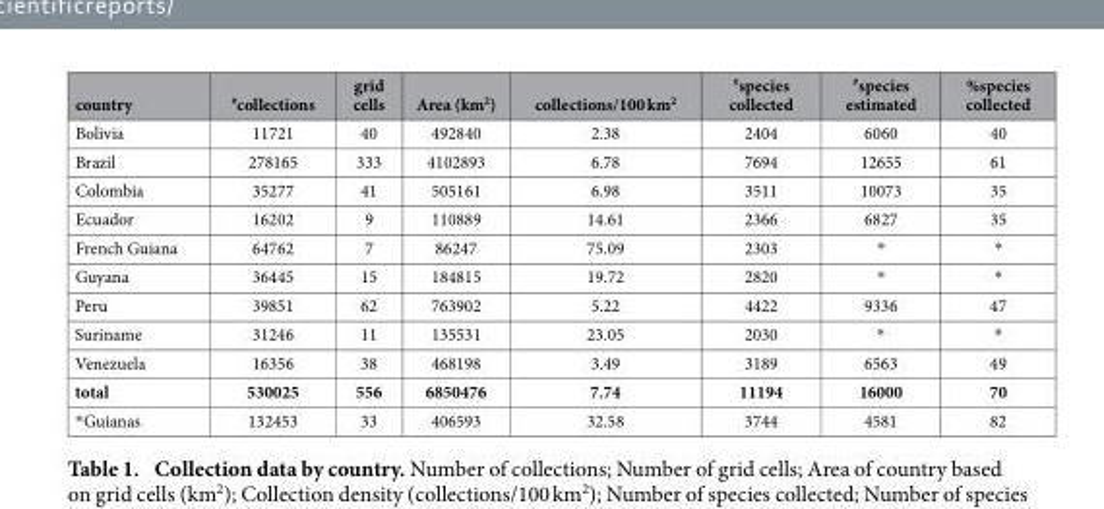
<table><thead><tr><td>country</td><td><sup>#</sup>collections</td><td>grid cells</td><td>Area (km<sup>2</sup>)</td><td>collections/100 km<sup>2</sup></td><td><sup>#</sup>species collected</td><td><sup>#</sup>species estimated</td><td>%species collected</td></tr></thead><tbody><tr><td>Bolivia</td><td>11721</td><td>40</td><td>492840</td><td>2.38</td><td>2404</td><td>6060</td><td>40</td></tr><tr><td>Brazil</td><td>278165</td><td>333</td><td>4102893</td><td>6.78</td><td>7694</td><td>12655</td><td>61</td></tr><tr><td>Colombia</td><td>35277</td><td>41</td><td>505161</td><td>6.98</td><td>3511</td><td>10073</td><td>35</td></tr><tr><td>Ecuador</td><td>16202</td><td>9</td><td>110889</td><td>14.61</td><td>2366</td><td>6827</td><td>35</td></tr><tr><td>French Guiana</td><td>64762</td><td>7</td><td>86247</td><td>75.09</td><td>2303</td><td>*</td><td>*</td></tr><tr><td>Guyana</td><td>36445</td><td>15</td><td>184815</td><td>19.72</td><td>2820</td><td>*</td><td>*</td></tr><tr><td>Peru</td><td>39851</td><td>62</td><td>763902</td><td>5.22</td><td>4422</td><td>9336</td><td>47</td></tr><tr><td>Suriname</td><td>31246</td><td>11</td><td>135531</td><td>23.05</td><td>2030</td><td>*</td><td>*</td></tr><tr><td>Venezuela</td><td>16356</td><td>38</td><td>468198</td><td>3.49</td><td>3189</td><td>6563</td><td>49</td></tr><tr><td>total</td><td>530025</td><td>556</td><td>6850476</td><td>7.74</td><td>11194</td><td>16000</td><td>70</td></tr><tr><td>* Guianas</td><td>132453</td><td>33</td><td>406593</td><td>32.58</td><td>3744</td><td>4581</td><td>82</td></tr></tbody></table>